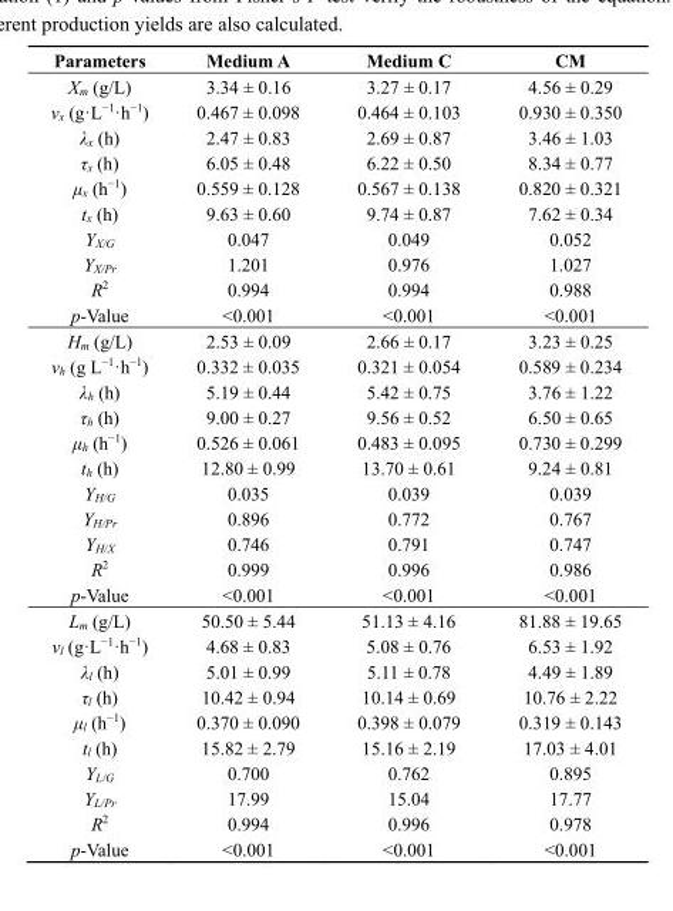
<table><thead><tr><td>Parameters</td><td>Medium A</td><td>Medium C</td><td>CM</td></tr></thead><tbody><tr><td>X<sub>m</sub> (g/L)</td><td>3.34 ± 0.16</td><td>3.27 ± 0.17</td><td>4.56 ± 0.29</td></tr><tr><td>v<sub>x</sub> (g·L<sup>−1</sup>·h<sup>−1</sup>)</td><td>0.467 ± 0.098</td><td>0.464 ± 0.103</td><td>0.930 ± 0.350</td></tr><tr><td>λ<sub>x</sub> (h)</td><td>2.47 ± 0.83</td><td>2.69 ± 0.87</td><td>3.46 ± 1.03</td></tr><tr><td>τ<sub>x</sub> (h)</td><td>6.05 ± 0.48</td><td>6.22 ± 0.50</td><td>8.34 ± 0.77</td></tr><tr><td>μ<sub>x</sub> (h<sup>−1</sup>)</td><td>0.559 ± 0.128</td><td>0.567 ± 0.138</td><td>0.820 ± 0.321</td></tr><tr><td>t<sub>x</sub> (h)</td><td>9.63 ± 0.60</td><td>9.74 ± 0.87</td><td>7.62 ± 0.34</td></tr><tr><td>Y<sub>X/G</sub></td><td>0.047</td><td>0.049</td><td>0.052</td></tr><tr><td>Y<sub>X/Pr</sub></td><td>1.201</td><td>0.976</td><td>1.027</td></tr><tr><td>R<sup>2</sup></td><td>0.994</td><td>0.994</td><td>0.988</td></tr><tr><td>p-Value</td><td>&lt;0.001</td><td>&lt;0.001</td><td>&lt;0.001</td></tr><tr><td>H<sub>m</sub> (g/L)</td><td>2.53 ± 0.09</td><td>2.66 ± 0.17</td><td>3.23 ± 0.25</td></tr><tr><td>v<sub>h</sub> (g L<sup>−1</sup>·h<sup>−1</sup>)</td><td>0.332 ± 0.035</td><td>0.321 ± 0.054</td><td>0.589 ± 0.234</td></tr><tr><td>λ<sub>h</sub> (h)</td><td>5.19 ± 0.44</td><td>5.42 ± 0.75</td><td>3.76 ± 1.22</td></tr><tr><td>τ<sub>h</sub> (h)</td><td>9.00 ± 0.27</td><td>9.56 ± 0.52</td><td>6.50 ± 0.65</td></tr><tr><td>μ<sub>h</sub> (h<sup>−1</sup>)</td><td>0.526 ± 0.061</td><td>0.483 ± 0.095</td><td>0.730 ± 0.299</td></tr><tr><td>t<sub>h</sub> (h)</td><td>12.80 ± 0.99</td><td>13.70 ± 0.61</td><td>9.24 ± 0.81</td></tr><tr><td>Y<sub>H/G</sub></td><td>0.035</td><td>0.039</td><td>0.039</td></tr><tr><td>Y<sub>H/Pr</sub></td><td>0.896</td><td>0.772</td><td>0.767</td></tr><tr><td>Y<sub>H/X</sub></td><td>0.746</td><td>0.791</td><td>0.747</td></tr><tr><td>R<sup>2</sup></td><td>0.999</td><td>0.996</td><td>0.986</td></tr><tr><td>p-Value</td><td>&lt;0.001</td><td>&lt;0.001</td><td>&lt;0.001</td></tr><tr><td>L<sub>m</sub> (g/L)</td><td>50.50 ± 5.44</td><td>51.13 ± 4.16</td><td>81.88 ± 19.65</td></tr><tr><td>v<sub>l</sub> (g·L<sup>−1</sup>·h<sup>−1</sup>)</td><td>4.68 ± 0.83</td><td>5.08 ± 0.76</td><td>6.53 ± 1.92</td></tr><tr><td>λ<sub>l</sub> (h)</td><td>5.01 ± 0.99</td><td>5.11 ± 0.78</td><td>4.49 ± 1.89</td></tr><tr><td>τ<sub>l</sub> (h)</td><td>10.42 ± 0.94</td><td>10.14 ± 0.69</td><td>10.76 ± 2.22</td></tr><tr><td>μ<sub>l</sub> (h<sup>−1</sup>)</td><td>0.370 ± 0.090</td><td>0.398 ± 0.079</td><td>0.319 ± 0.143</td></tr><tr><td>t<sub>l</sub> (h)</td><td>15.82 ± 2.79</td><td>15.16 ± 2.19</td><td>17.03 ± 4.01</td></tr><tr><td>Y<sub>L/G</sub></td><td>0.700</td><td>0.762</td><td>0.895</td></tr><tr><td>Y<sub>L/Pr</sub></td><td>17.99</td><td>15.04</td><td>17.77</td></tr><tr><td>R<sup>2</sup></td><td>0.994</td><td>0.996</td><td>0.978</td></tr><tr><td>p-Value</td><td>&lt;0.001</td><td>&lt;0.001</td><td>&lt;0.001</td></tr></tbody></table>